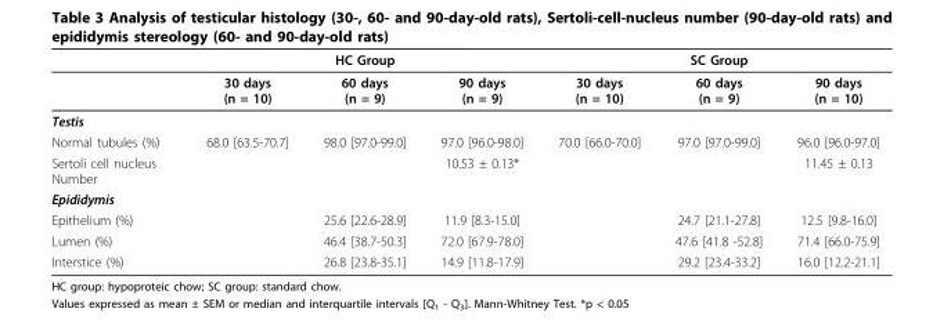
<table><thead><tr><td rowspan="2"></td><td colspan="3">HC Group</td><td colspan="3">SC Group</td></tr><tr><td>30 days (n = 10)</td><td>60 days (n = 9)</td><td>90 days (n = 9)</td><td>30 days (n = 10)</td><td>60 days (n = 9)</td><td>90 days (n = 10)</td></tr></thead><tbody><tr><td colspan="7">Testis</td></tr><tr><td>Normal tubules (%)</td><td>68.0 [63.5-70.7]</td><td>98.0 [97.0-99.0]</td><td>97.0 [96.0-98.0]</td><td>70.0 [66.0-70.0]</td><td>97.0 [97.0-99.0]</td><td>96.0 [96.0-97.0]</td></tr><tr><td>Sertoli cell nucleus Number</td><td></td><td></td><td>10.53 ± 0.13*</td><td></td><td></td><td>11.45 ± 0.13</td></tr><tr><td colspan="7">Epididymis</td></tr><tr><td>Epithelium (%)</td><td></td><td>25.6 [22.6-28.9]</td><td>11.9 [8.3-15.0]</td><td></td><td>24.7 [21.1-27.8]</td><td>12.5 [9.8-16.0]</td></tr><tr><td>Lumen (%)</td><td></td><td>46.4 [38.7-50.3]</td><td>72.0 [67.9-78.0]</td><td></td><td>47.6 [41.8 -52.8]</td><td>71.4 [66.0-75.9]</td></tr><tr><td>Interstice (%)</td><td></td><td>26.8 [23.8-35.1]</td><td>14.9 [11.8-17.9]</td><td></td><td>29.2 [23.4-33.2]</td><td>16.0 [12.2-21.1]</td></tr></tbody></table>